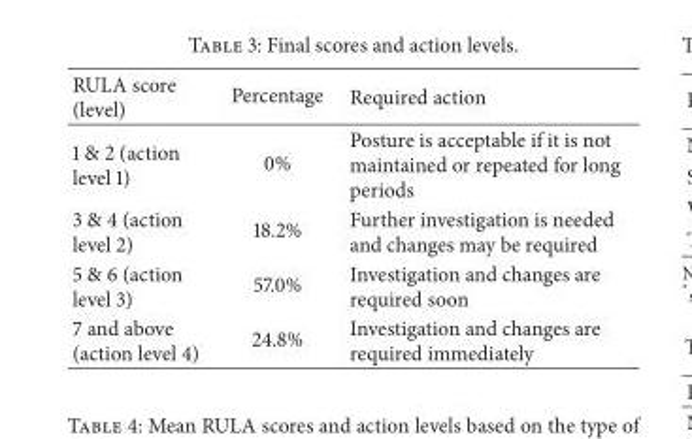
<table><thead><tr><td>RULA score (level)</td><td>Percentage</td><td>Required action</td></tr></thead><tbody><tr><td>1 &amp; 2 (action level 1)</td><td>0%</td><td>Posture is acceptable if it is not maintained or repeated for long periods</td></tr><tr><td>3 &amp; 4 (action level 2)</td><td>18.2%</td><td>Further investigation is needed and changes may be required</td></tr><tr><td>5 &amp; 6 (action level 3)</td><td>57.0%</td><td>Investigation and changes are required soon</td></tr><tr><td>7 and above (action level 4)</td><td>24.8%</td><td>Investigation and changes are required immediately</td></tr></tbody></table>